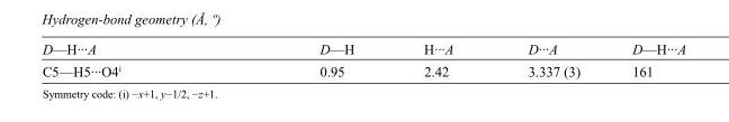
<table><tbody><tr><td>D—H···A</td><td>D—H</td><td>H···A</td><td>D···A</td><td>D—H···A</td></tr><tr><td>C5—H5···O4<sup>i</sup></td><td>0.95</td><td>2.42</td><td>3.337 (3)</td><td>161</td></tr></tbody></table>